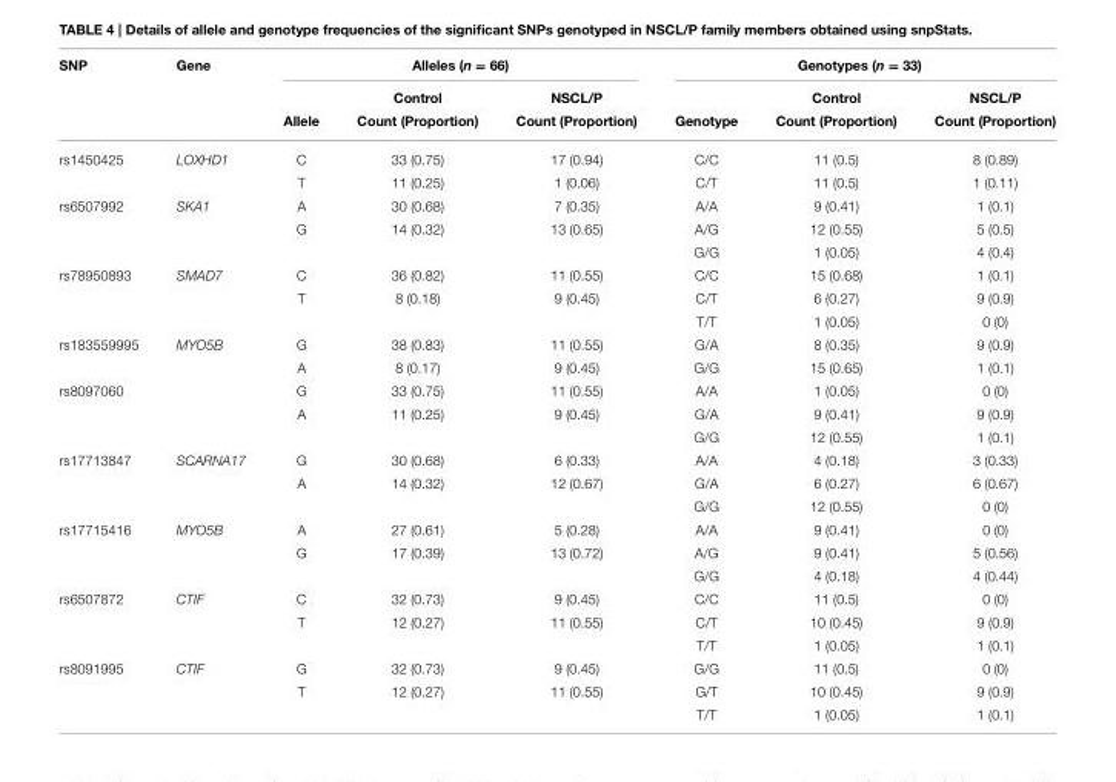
<table><thead><tr><td rowspan="3">SNP</td><td rowspan="3">Gene</td><td colspan="3">Alleles (n = 66)</td><td colspan="3">Genotypes (n = 33)</td></tr><tr><td rowspan="2">Allele</td><td rowspan="2">Control Count (Proportion)</td><td rowspan="2">NSCL/P Count (Proportion)</td><td rowspan="2">Genotype</td><td rowspan="2">Control Count (Proportion)</td><td rowspan="2">NSCL/P Count (Proportion)</td></tr><tr></tr></thead><tbody><tr><td rowspan="2">rs1450425</td><td>LOXHD1</td><td>C</td><td>33 (0.75)</td><td>17 (0.94)</td><td>C/C</td><td>11 (0.5)</td><td>8 (0.89)</td></tr><tr><td></td><td>T</td><td>11 (0.25)</td><td>1 (0.06)</td><td>C/T</td><td>11 (0.5)</td><td>1 (0.11)</td></tr><tr><td rowspan="3">rs6507992</td><td>SKA1</td><td>A</td><td>30 (0.68)</td><td>7 (0.35)</td><td>A/A</td><td>9 (0.41)</td><td>1 (0.1)</td></tr><tr><td></td><td>G</td><td>14 (0.32)</td><td>13 (0.65)</td><td>A/G</td><td>12 (0.55)</td><td>5 (0.5)</td></tr><tr><td></td><td></td><td></td><td></td><td>G/G</td><td>1 (0.05)</td><td>4 (0.4)</td></tr><tr><td rowspan="3">rs78950893</td><td>SMAD7</td><td>C</td><td>36 (0.82)</td><td>11 (0.55)</td><td>C/C</td><td>15 (0.68)</td><td>1 (0.1)</td></tr><tr><td></td><td>T</td><td>8 (0.18)</td><td>9 (0.45)</td><td>C/T</td><td>6 (0.27)</td><td>9 (0.9)</td></tr><tr><td></td><td></td><td></td><td></td><td>T/T</td><td>1 (0.05)</td><td>0 (0)</td></tr><tr><td rowspan="2">rs183559995</td><td>MYO5B</td><td>G</td><td>38 (0.83)</td><td>11 (0.55)</td><td>G/A</td><td>8 (0.35)</td><td>9 (0.9)</td></tr><tr><td></td><td>A</td><td>8 (0.17)</td><td>9 (0.45)</td><td>G/G</td><td>15 (0.65)</td><td>1 (0.1)</td></tr><tr><td rowspan="3">rs8097060</td><td></td><td>G</td><td>33 (0.75)</td><td>11 (0.55)</td><td>A/A</td><td>1 (0.05)</td><td>0 (0)</td></tr><tr><td></td><td>A</td><td>11 (0.25)</td><td>9 (0.45)</td><td>G/A</td><td>9 (0.41)</td><td>9 (0.9)</td></tr><tr><td></td><td></td><td></td><td></td><td>G/G</td><td>12 (0.55)</td><td>1 (0.1)</td></tr><tr><td rowspan="3">rs17713847</td><td>SCARNA17</td><td>G</td><td>30 (0.68)</td><td>6 (0.33)</td><td>A/A</td><td>4 (0.18)</td><td>3 (0.33)</td></tr><tr><td></td><td>A</td><td>14 (0.32)</td><td>12 (0.67)</td><td>G/A</td><td>6 (0.27)</td><td>6 (0.67)</td></tr><tr><td></td><td></td><td></td><td></td><td>G/G</td><td>12 (0.55)</td><td>0 (0)</td></tr><tr><td rowspan="3">rs17715416</td><td>MYO5B</td><td>A</td><td>27 (0.61)</td><td>5 (0.28)</td><td>A/A</td><td>9 (0.41)</td><td>0 (0)</td></tr><tr><td></td><td>G</td><td>17 (0.39)</td><td>13 (0.72)</td><td>A/G</td><td>9 (0.41)</td><td>5 (0.56)</td></tr><tr><td></td><td></td><td></td><td></td><td>G/G</td><td>4 (0.18)</td><td>4 (0.44)</td></tr><tr><td rowspan="3">rs6507872</td><td>CTIF</td><td>C</td><td>32 (0.73)</td><td>9 (0.45)</td><td>C/C</td><td>11 (0.5)</td><td>0 (0)</td></tr><tr><td></td><td>T</td><td>12 (0.27)</td><td>11 (0.55)</td><td>C/T</td><td>10 (0.45)</td><td>9 (0.9)</td></tr><tr><td></td><td></td><td></td><td></td><td>T/T</td><td>1 (0.05)</td><td>1 (0.1)</td></tr><tr><td rowspan="3">rs8091995</td><td>CTIF</td><td>G</td><td>32 (0.73)</td><td>9 (0.45)</td><td>G/G</td><td>11 (0.5)</td><td>0 (0)</td></tr><tr><td></td><td>T</td><td>12 (0.27)</td><td>11 (0.55)</td><td>G/T</td><td>10 (0.45)</td><td>9 (0.9)</td></tr><tr><td></td><td></td><td></td><td></td><td>T/T</td><td>1 (0.05)</td><td>1 (0.1)</td></tr></tbody></table>